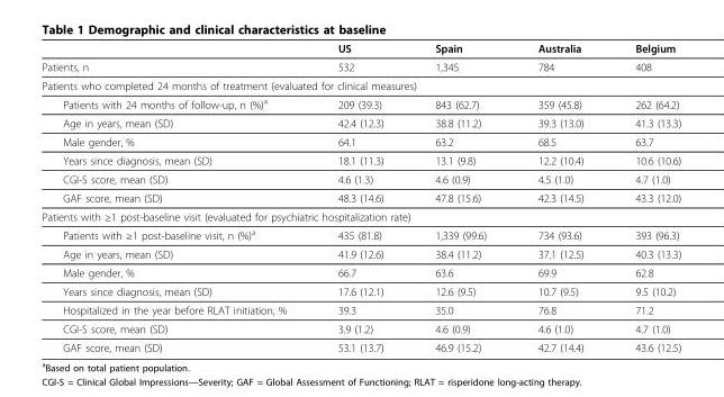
<table><thead><tr><td></td><td>US</td><td>Spain</td><td>Australia</td><td>Belgium</td></tr></thead><tbody><tr><td>Patients, n</td><td>532</td><td>1,345</td><td>784</td><td>408</td></tr><tr><td colspan="5">Patients who completed 24 months of treatment (evaluated for clinical measures)</td></tr><tr><td>Patients with 24 months of follow-up, n (%)<sup>a</sup></td><td>209 (39.3)</td><td>843 (62.7)</td><td>359 (45.8)</td><td>262 (64.2)</td></tr><tr><td>Age in years, mean (SD)</td><td>42.4 (12.3)</td><td>38.8 (11.2)</td><td>39.3 (13.0)</td><td>41.3 (13.3)</td></tr><tr><td>Male gender, %</td><td>64.1</td><td>63.2</td><td>68.5</td><td>63.7</td></tr><tr><td>Years since diagnosis, mean (SD)</td><td>18.1 (11.3)</td><td>13.1 (9.8)</td><td>12.2 (10.4)</td><td>10.6 (10.6)</td></tr><tr><td>CGI-S score, mean (SD)</td><td>4.6 (1.3)</td><td>4.6 (0.9)</td><td>4.5 (1.0)</td><td>4.7 (1.0)</td></tr><tr><td>GAF score, mean (SD)</td><td>48.3 (14.6)</td><td>47.8 (15.6)</td><td>42.3 (14.5)</td><td>43.3 (12.0)</td></tr><tr><td colspan="5">Patients with ≥1 post-baseline visit (evaluated for psychiatric hospitalization rate)</td></tr><tr><td>Patients with ≥1 post-baseline visit, n (%)<sup>a</sup></td><td>435 (81.8)</td><td>1,339 (99.6)</td><td>734 (93.6)</td><td>393 (96.3)</td></tr><tr><td>Age in years, mean (SD)</td><td>41.9 (12.6)</td><td>38.4 (11.2)</td><td>37.1 (12.5)</td><td>40.3 (13.3)</td></tr><tr><td>Male gender, %</td><td>66.7</td><td>63.6</td><td>69.9</td><td>62.8</td></tr><tr><td>Years since diagnosis, mean (SD)</td><td>17.6 (12.1)</td><td>12.6 (9.5)</td><td>10.7 (9.5)</td><td>9.5 (10.2)</td></tr><tr><td>Hospitalized in the year before RLAT initiation, %</td><td>39.3</td><td>35.0</td><td>76.8</td><td>71.2</td></tr><tr><td>CGI-S score, mean (SD)</td><td>3.9 (1.2)</td><td>4.6 (0.9)</td><td>4.6 (1.0)</td><td>4.7 (1.0)</td></tr><tr><td>GAF score, mean (SD)</td><td>53.1 (13.7)</td><td>46.9 (15.2)</td><td>42.7 (14.4)</td><td>43.6 (12.5)</td></tr></tbody></table>